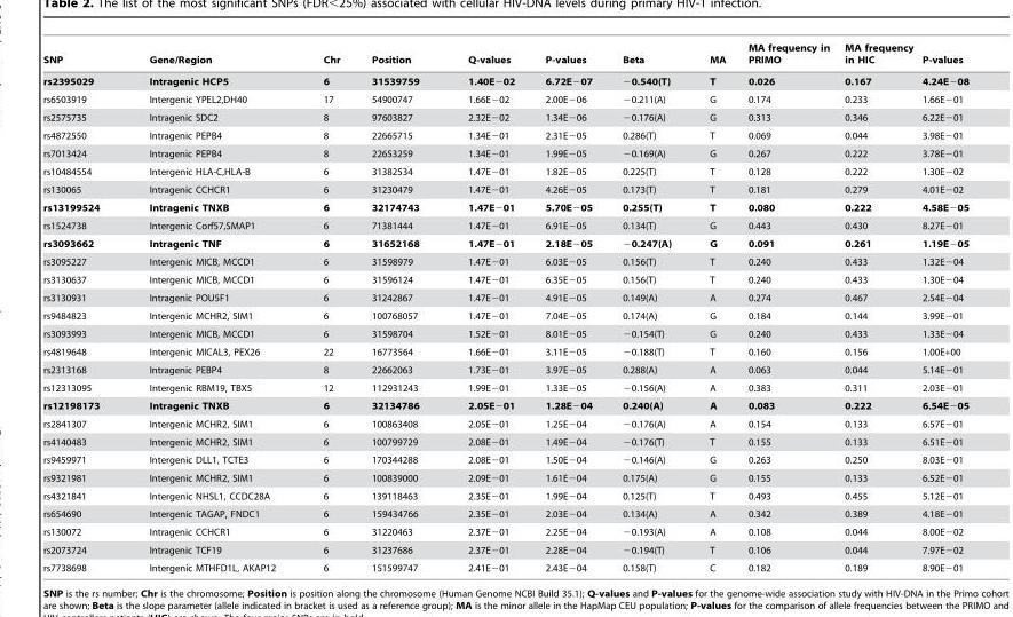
<table><thead><tr><td>SNP</td><td>Gene/Region</td><td>Chr</td><td>Position</td><td>Q-values</td><td>P-values</td><td>Beta</td><td>MA</td><td>MA frequency in PRIMO</td><td>MA frequency in HIC</td><td>P-values</td></tr></thead><tbody><tr><td>rs2395029</td><td>Intragenic HCP5</td><td>6</td><td>31539759</td><td>1.40E−02</td><td>6.72E−07</td><td>−0.540(T)</td><td>T</td><td>0.026</td><td>0.167</td><td>4.24E−08</td></tr><tr><td>rs6503919</td><td>Intergenic YPEL2,DH40</td><td>17</td><td>54900747</td><td>1.66E−02</td><td>2.00E−06</td><td>−0.211(A)</td><td>G</td><td>0.174</td><td>0.233</td><td>1.66E−01</td></tr><tr><td>rs2575735</td><td>Intragenic SDC2</td><td>8</td><td>97603827</td><td>2.32E−02</td><td>1.34E−06</td><td>−0.176(A)</td><td>G</td><td>0.313</td><td>0.346</td><td>6.22E−01</td></tr><tr><td>rs4872550</td><td>Intragenic PEPB4</td><td>8</td><td>22665715</td><td>1.34E−01</td><td>2.31E−05</td><td>0.286(T)</td><td>T</td><td>0.069</td><td>0.044</td><td>3.98E−01</td></tr><tr><td>rs7013424</td><td>Intragenic PEPB4</td><td>8</td><td>22653259</td><td>1.34E−01</td><td>1.99E−05</td><td>−0.169(A)</td><td>G</td><td>0.267</td><td>0.222</td><td>3.78E−01</td></tr><tr><td>rs10484554</td><td>Intergenic HLA-C,HLA-B</td><td>6</td><td>31382534</td><td>1.47E−01</td><td>1.82E−05</td><td>0.225(T)</td><td>T</td><td>0.128</td><td>0.222</td><td>1.30E−02</td></tr><tr><td>rs130065</td><td>Intragenic CCHCR1</td><td>6</td><td>31230479</td><td>1.47E−01</td><td>4.26E−05</td><td>0.173(T)</td><td>T</td><td>0.181</td><td>0.279</td><td>4.01E−02</td></tr><tr><td>rs13199524</td><td>Intragenic TNXB</td><td>6</td><td>32174743</td><td>1.47E−01</td><td>5.70E−05</td><td>0.255(T)</td><td>T</td><td>0.080</td><td>0.222</td><td>4.58E−05</td></tr><tr><td>rs1524738</td><td>Intergenic Corf57,SMAP1</td><td>6</td><td>71381444</td><td>1.47E−01</td><td>6.91E−05</td><td>0.134(T)</td><td>G</td><td>0.443</td><td>0.430</td><td>8.27E−01</td></tr><tr><td>rs3093662</td><td>Intragenic TNF</td><td>6</td><td>31652168</td><td>1.47E−01</td><td>2.18E−05</td><td>−0.247(A)</td><td>G</td><td>0.091</td><td>0.261</td><td>1.19E−05</td></tr><tr><td>rs3095227</td><td>Intergenic MICB, MCCD1</td><td>6</td><td>31598979</td><td>1.47E−01</td><td>6.03E−05</td><td>0.156(T)</td><td>T</td><td>0.240</td><td>0.433</td><td>1.32E−04</td></tr><tr><td>rs3130637</td><td>Intergenic MICB, MCCD1</td><td>6</td><td>31596124</td><td>1.47E−01</td><td>6.35E−05</td><td>0.156(T)</td><td>T</td><td>0.240</td><td>0.433</td><td>1.30E−04</td></tr><tr><td>rs3130931</td><td>Intragenic POU5F1</td><td>6</td><td>31242867</td><td>1.47E−01</td><td>4.91E−05</td><td>0.149(A)</td><td>A</td><td>0.274</td><td>0.467</td><td>2.54E−04</td></tr><tr><td>rs9484823</td><td>Intergenic MCHR2, SIM1</td><td>6</td><td>100768057</td><td>1.47E−01</td><td>7.04E−05</td><td>0.174(A)</td><td>G</td><td>0.184</td><td>0.144</td><td>3.99E−01</td></tr><tr><td>rs3093993</td><td>Intergenic MICB, MCCD1</td><td>6</td><td>31598704</td><td>1.52E−01</td><td>8.01E−05</td><td>−0.154(T)</td><td>G</td><td>0.240</td><td>0.433</td><td>1.33E−04</td></tr><tr><td>rs4819648</td><td>Intergenic MICAL3, PEX26</td><td>22</td><td>16773564</td><td>1.66E−01</td><td>3.11E−05</td><td>−0.188(T)</td><td>T</td><td>0.160</td><td>0.156</td><td>1.00E+00</td></tr><tr><td>rs2313168</td><td>Intragenic PEBP4</td><td>8</td><td>22662063</td><td>1.73E−01</td><td>3.97E−05</td><td>0.288(A)</td><td>A</td><td>0.063</td><td>0.044</td><td>5.14E−01</td></tr><tr><td>rs12313095</td><td>Intergenic RBM19, TBX5</td><td>12</td><td>112931243</td><td>1.99E−01</td><td>1.33E−05</td><td>−0.156(A)</td><td>A</td><td>0.383</td><td>0.311</td><td>2.03E−01</td></tr><tr><td>rs12198173</td><td>Intragenic TNXB</td><td>6</td><td>32134786</td><td>2.05E−01</td><td>1.28E−04</td><td>0.240(A)</td><td>A</td><td>0.083</td><td>0.222</td><td>6.54E−05</td></tr><tr><td>rs2841307</td><td>Intergenic MCHR2, SIM1</td><td>6</td><td>100863408</td><td>2.05E−01</td><td>1.25E−04</td><td>−0.176(A)</td><td>A</td><td>0.154</td><td>0.133</td><td>6.57E−01</td></tr><tr><td>rs4140483</td><td>Intergenic MCHR2, SIM1</td><td>6</td><td>100799729</td><td>2.08E−01</td><td>1.49E−04</td><td>−0.176(T)</td><td>T</td><td>0.155</td><td>0.133</td><td>6.51E−01</td></tr><tr><td>rs9459971</td><td>Intergenic DLL1, TCTE3</td><td>6</td><td>170344288</td><td>2.08E−01</td><td>1.50E−04</td><td>−0.146(A)</td><td>G</td><td>0.263</td><td>0.250</td><td>8.03E−01</td></tr><tr><td>rs9321981</td><td>Intergenic MCHR2, SIM1</td><td>6</td><td>100839000</td><td>2.09E−01</td><td>1.61E−04</td><td>0.175(A)</td><td>G</td><td>0.155</td><td>0.133</td><td>6.52E−01</td></tr><tr><td>rs4321841</td><td>Intergenic NHSL1, CCDC28A</td><td>6</td><td>139118463</td><td>2.35E−01</td><td>1.99E−04</td><td>0.125(T)</td><td>T</td><td>0.493</td><td>0.455</td><td>5.12E−01</td></tr><tr><td>rs654690</td><td>Intergenic TAGAP, FNDC1</td><td>6</td><td>159434766</td><td>2.35E−01</td><td>2.03E−04</td><td>0.134(A)</td><td>A</td><td>0.342</td><td>0.389</td><td>4.18E−01</td></tr><tr><td>rs130072</td><td>Intragenic CCHCR1</td><td>6</td><td>31220463</td><td>2.37E−01</td><td>2.25E−04</td><td>−0.193(A)</td><td>A</td><td>0.108</td><td>0.044</td><td>8.00E−02</td></tr><tr><td>rs2073724</td><td>Intragenic TCF19</td><td>6</td><td>31237686</td><td>2.37E−01</td><td>2.28E−04</td><td>−0.194(T)</td><td>T</td><td>0.106</td><td>0.044</td><td>7.97E−02</td></tr><tr><td>rs7738698</td><td>Intergenic MTHFD1L, AKAP12</td><td>6</td><td>151599747</td><td>2.41E−01</td><td>2.43E−04</td><td>0.158(T)</td><td>C</td><td>0.182</td><td>0.189</td><td>8.90E−01</td></tr></tbody></table>